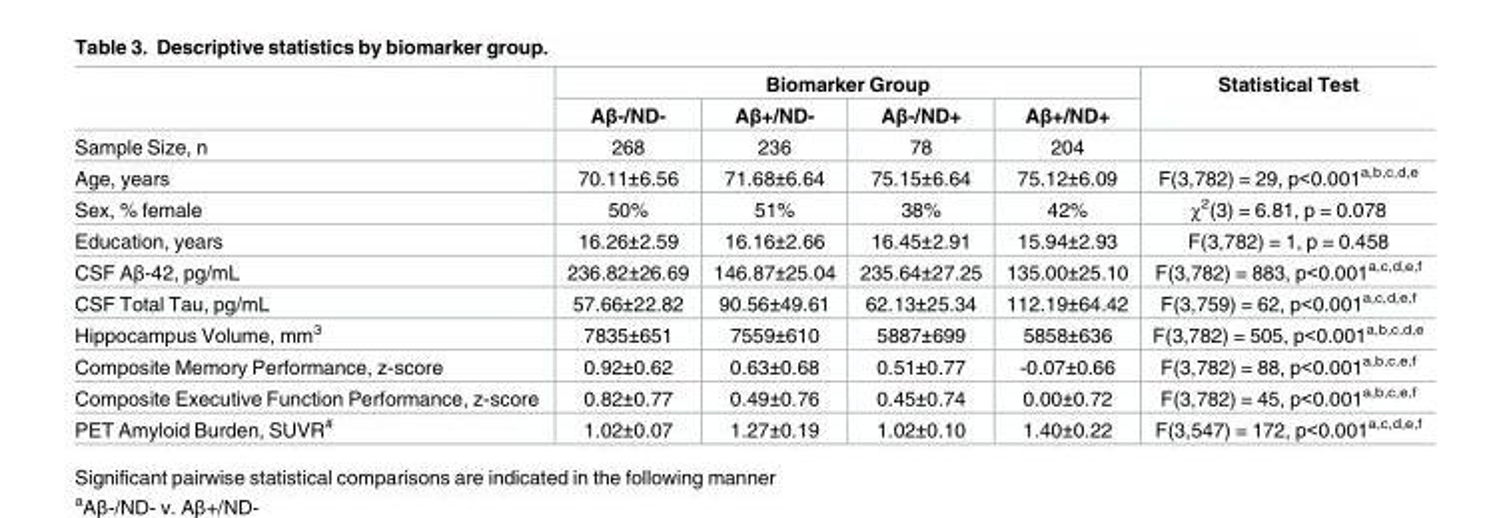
<table><thead><tr><td rowspan="2"></td><td colspan="4">Biomarker Group</td><td rowspan="2">Statistical Test</td></tr><tr><td>Aβ-/ND-</td><td>Aβ+/ND-</td><td>Aβ-/ND+</td><td>Aβ+/ND+</td></tr></thead><tbody><tr><td>Sample Size, n</td><td>268</td><td>236</td><td>78</td><td>204</td><td></td></tr><tr><td>Age, years</td><td>70.11±6.56</td><td>71.68±6.64</td><td>75.15±6.64</td><td>75.12±6.09</td><td>F(3,782) = 29, p&lt;0.001<sup>a,b,c,d,e</sup></td></tr><tr><td>Sex, % female</td><td>50%</td><td>51%</td><td>38%</td><td>42%</td><td>χ<sup>2</sup>(3) = 6.81, p = 0.078</td></tr><tr><td>Education, years</td><td>16.26±2.59</td><td>16.16±2.66</td><td>16.45±2.91</td><td>15.94±2.93</td><td>F(3,782) = 1, p = 0.458</td></tr><tr><td>CSF Aβ-42, pg/mL</td><td>236.82±26.69</td><td>146.87±25.04</td><td>235.64±27.25</td><td>135.00±25.10</td><td>F(3,782) = 883, p&lt;0.001<sup>a,c,d,e,f</sup></td></tr><tr><td>CSF Total Tau, pg/mL</td><td>57.66±22.82</td><td>90.56±49.61</td><td>62.13±25.34</td><td>112.19±64.42</td><td>F(3,759) = 62, p&lt;0.001<sup>a,c,d,e,f</sup></td></tr><tr><td>Hippocampus Volume, mm<sup>3</sup></td><td>7835±651</td><td>7559±610</td><td>5887±699</td><td>5858±636</td><td>F(3,782) = 505, p&lt;0.001<sup>a,b,c,d,e</sup></td></tr><tr><td>Composite Memory Performance, z-score</td><td>0.92±0.62</td><td>0.63±0.68</td><td>0.51±0.77</td><td>-0.07±0.66</td><td>F(3,782) = 88, p&lt;0.001<sup>a,b,c,e,f</sup></td></tr><tr><td>Composite Executive Function Performance, z-score</td><td>0.82±0.77</td><td>0.49±0.76</td><td>0.45±0.74</td><td>0.00±0.72</td><td>F(3,782) = 45, p&lt;0.001<sup>a,b,c,e,f</sup></td></tr><tr><td>PET Amyloid Burden, SUVR<sup>#</sup></td><td>1.02±0.07</td><td>1.27±0.19</td><td>1.02±0.10</td><td>1.40±0.22</td><td>F(3,547) = 172, p&lt;0.001<sup>a,c,d,e,f</sup></td></tr></tbody></table>